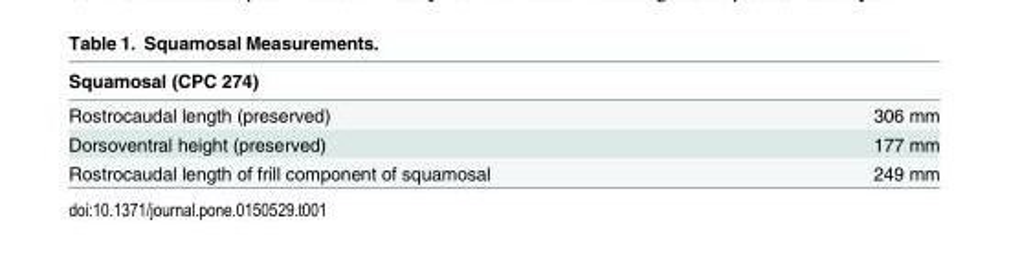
<table><thead><tr><td>Squamosal (CPC 274)</td><td></td></tr></thead><tbody><tr><td>Rostrocaudal length (preserved)</td><td>306 mm</td></tr><tr><td>Dorsoventral height (preserved)</td><td>177 mm</td></tr><tr><td>Rostrocaudal length of frill component of squamosal</td><td>249 mm</td></tr></tbody></table>